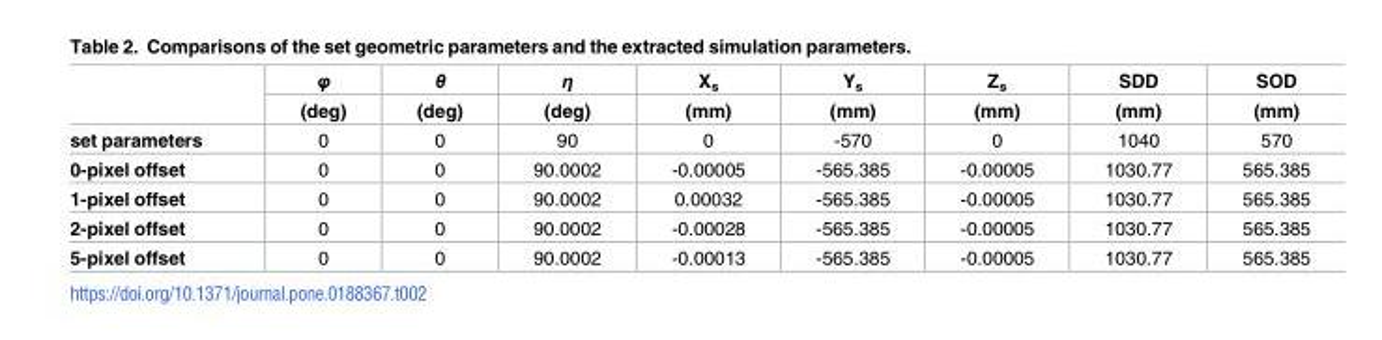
<table><thead><tr><td rowspan="2"></td><td rowspan="2">φ (deg)</td><td rowspan="2">θ (deg)</td><td rowspan="2">η (deg)</td><td rowspan="2">X<sub>s</sub> (mm)</td><td rowspan="2">Y<sub>s</sub> (mm)</td><td rowspan="2">Z<sub>s</sub> (mm)</td><td rowspan="2">SDD (mm)</td><td rowspan="2">SOD (mm)</td></tr><tr></tr></thead><tbody><tr><td>set parameters</td><td>0</td><td>0</td><td>90</td><td>0</td><td>-570</td><td>0</td><td>1040</td><td>570</td></tr><tr><td>0-pixel offset</td><td>0</td><td>0</td><td>90.0002</td><td>-0.00005</td><td>-565.385</td><td>-0.00005</td><td>1030.77</td><td>565.385</td></tr><tr><td>1-pixel offset</td><td>0</td><td>0</td><td>90.0002</td><td>0.00032</td><td>-565.385</td><td>-0.00005</td><td>1030.77</td><td>565.385</td></tr><tr><td>2-pixel offset</td><td>0</td><td>0</td><td>90.0002</td><td>-0.00028</td><td>-565.385</td><td>-0.00005</td><td>1030.77</td><td>565.385</td></tr><tr><td>5-pixel offset</td><td>0</td><td>0</td><td>90.0002</td><td>-0.00013</td><td>-565.385</td><td>-0.00005</td><td>1030.77</td><td>565.385</td></tr></tbody></table>